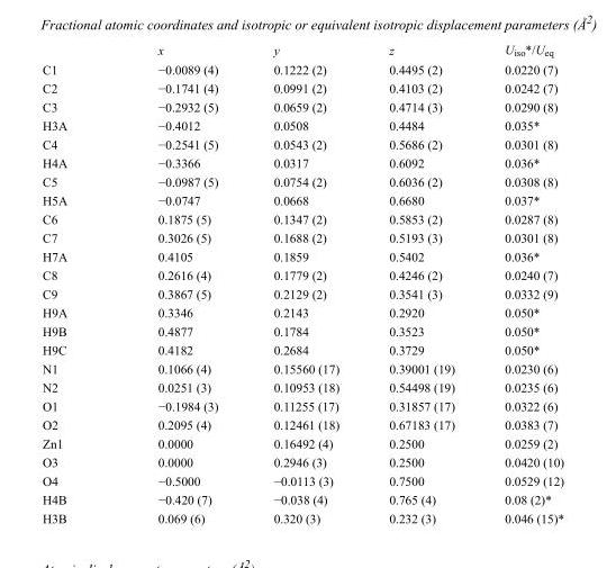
<table><thead><tr><td></td><td>x</td><td>y</td><td>z</td><td>U<sub>iso</sub>*/U<sub>eq</sub></td></tr></thead><tbody><tr><td>C1</td><td>−0.0089 (4)</td><td>0.1222 (2)</td><td>0.4495 (2)</td><td>0.0220 (7)</td></tr><tr><td>C2</td><td>−0.1741 (4)</td><td>0.0991 (2)</td><td>0.4103 (2)</td><td>0.0242 (7)</td></tr><tr><td>C3</td><td>−0.2932 (5)</td><td>0.0659 (2)</td><td>0.4714 (3)</td><td>0.0290 (8)</td></tr><tr><td>H3A</td><td>−0.4012</td><td>0.0508</td><td>0.4484</td><td>0.035*</td></tr><tr><td>C4</td><td>−0.2541 (5)</td><td>0.0543 (2)</td><td>0.5686 (2)</td><td>0.0301 (8)</td></tr><tr><td>H4A</td><td>−0.3366</td><td>0.0317</td><td>0.6092</td><td>0.036*</td></tr><tr><td>C5</td><td>−0.0987 (5)</td><td>0.0754 (2)</td><td>0.6036 (2)</td><td>0.0308 (8)</td></tr><tr><td>H5A</td><td>−0.0747</td><td>0.0668</td><td>0.6680</td><td>0.037*</td></tr><tr><td>C6</td><td>0.1875 (5)</td><td>0.1347 (2)</td><td>0.5853 (2)</td><td>0.0287 (8)</td></tr><tr><td>C7</td><td>0.3026 (5)</td><td>0.1688 (2)</td><td>0.5193 (3)</td><td>0.0301 (8)</td></tr><tr><td>H7A</td><td>0.4105</td><td>0.1859</td><td>0.5402</td><td>0.036*</td></tr><tr><td>C8</td><td>0.2616 (4)</td><td>0.1779 (2)</td><td>0.4246 (2)</td><td>0.0240 (7)</td></tr><tr><td>C9</td><td>0.3867 (5)</td><td>0.2129 (2)</td><td>0.3541 (3)</td><td>0.0332 (9)</td></tr><tr><td>H9A</td><td>0.3346</td><td>0.2143</td><td>0.2920</td><td>0.050*</td></tr><tr><td>H9B</td><td>0.4877</td><td>0.1784</td><td>0.3523</td><td>0.050*</td></tr><tr><td>H9C</td><td>0.4182</td><td>0.2684</td><td>0.3729</td><td>0.050*</td></tr><tr><td>N1</td><td>0.1066 (4)</td><td>0.15560 (17)</td><td>0.39001 (19)</td><td>0.0230 (6)</td></tr><tr><td>N2</td><td>0.0251 (3)</td><td>0.10953 (18)</td><td>0.54498 (19)</td><td>0.0235 (6)</td></tr><tr><td>O1</td><td>−0.1984 (3)</td><td>0.11255 (17)</td><td>0.31857 (17)</td><td>0.0322 (6)</td></tr><tr><td>O2</td><td>0.2095 (4)</td><td>0.12461 (18)</td><td>0.67183 (17)</td><td>0.0383 (7)</td></tr><tr><td>Zn1</td><td>0.0000</td><td>0.16492 (4)</td><td>0.2500</td><td>0.0259 (2)</td></tr><tr><td>O3</td><td>0.0000</td><td>0.2946 (3)</td><td>0.2500</td><td>0.0420 (10)</td></tr><tr><td>O4</td><td>−0.5000</td><td>−0.0113 (3)</td><td>0.7500</td><td>0.0529 (12)</td></tr><tr><td>H4B</td><td>−0.420 (7)</td><td>−0.038 (4)</td><td>0.765 (4)</td><td>0.08 (2)*</td></tr><tr><td>H3B</td><td>0.069 (6)</td><td>0.320 (3)</td><td>0.232 (3)</td><td>0.046 (15)*</td></tr></tbody></table>